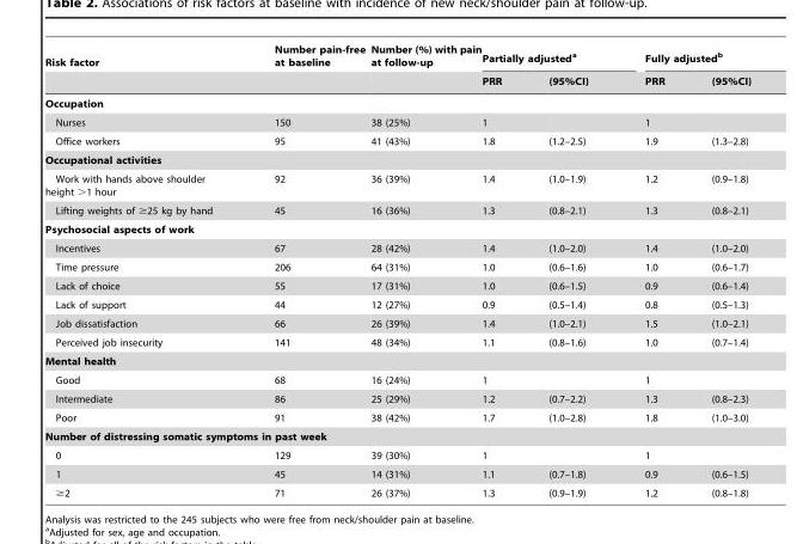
<table><thead><tr><td rowspan="2">Risk factor</td><td rowspan="2">Number pain-free at baseline</td><td rowspan="2">Number (%) with pain at follow-up</td><td colspan="2">Partially adjusted<sup>a</sup></td><td colspan="2">Fully adjusted<sup>b</sup></td></tr><tr><td>PRR</td><td>(95%CI)</td><td>PRR</td><td>(95%CI)</td></tr></thead><tbody><tr><td colspan="7">Occupation</td></tr><tr><td>Nurses</td><td>150</td><td>38 (25%)</td><td>1</td><td></td><td>1</td><td></td></tr><tr><td>Office workers</td><td>95</td><td>41 (43%)</td><td>1.8</td><td>(1.2–2.5)</td><td>1.9</td><td>(1.3–2.8)</td></tr><tr><td colspan="7">Occupational activities</td></tr><tr><td>Work with hands above shoulder height &gt;1 hour</td><td>92</td><td>36 (39%)</td><td>1.4</td><td>(1.0–1.9)</td><td>1.2</td><td>(0.9–1.8)</td></tr><tr><td>Lifting weights of ≥25 kg by hand</td><td>45</td><td>16 (36%)</td><td>1.3</td><td>(0.8–2.1)</td><td>1.3</td><td>(0.8–2.1)</td></tr><tr><td colspan="7">Psychosocial aspects of work</td></tr><tr><td>Incentives</td><td>67</td><td>28 (42%)</td><td>1.4</td><td>(1.0–2.0)</td><td>1.4</td><td>(1.0–2.0)</td></tr><tr><td>Time pressure</td><td>206</td><td>64 (31%)</td><td>1.0</td><td>(0.6–1.6)</td><td>1.0</td><td>(0.6–1.7)</td></tr><tr><td>Lack of choice</td><td>55</td><td>17 (31%)</td><td>1.0</td><td>(0.6–1.5)</td><td>0.9</td><td>(0.6–1.4)</td></tr><tr><td>Lack of support</td><td>44</td><td>12 (27%)</td><td>0.9</td><td>(0.5–1.4)</td><td>0.8</td><td>(0.5–1.3)</td></tr><tr><td>Job dissatisfaction</td><td>66</td><td>26 (39%)</td><td>1.4</td><td>(1.0–2.1)</td><td>1.5</td><td>(1.0–2.1)</td></tr><tr><td>Perceived job insecurity</td><td>141</td><td>48 (34%)</td><td>1.1</td><td>(0.8–1.6)</td><td>1.0</td><td>(0.7–1.4)</td></tr><tr><td colspan="7">Mental health</td></tr><tr><td>Good</td><td>68</td><td>16 (24%)</td><td>1</td><td></td><td>1</td><td></td></tr><tr><td>Intermediate</td><td>86</td><td>25 (29%)</td><td>1.2</td><td>(0.7–2.2)</td><td>1.3</td><td>(0.8–2.3)</td></tr><tr><td>Poor</td><td>91</td><td>38 (42%)</td><td>1.7</td><td>(1.0–2.8)</td><td>1.8</td><td>(1.0–3.0)</td></tr><tr><td colspan="7">Number of distressing somatic symptoms in past week</td></tr><tr><td>0</td><td>129</td><td>39 (30%)</td><td>1</td><td></td><td>1</td><td></td></tr><tr><td>1</td><td>45</td><td>14 (31%)</td><td>1.1</td><td>(0.7–1.8)</td><td>0.9</td><td>(0.6–1.5)</td></tr><tr><td>≥2</td><td>71</td><td>26 (37%)</td><td>1.3</td><td>(0.9–1.9)</td><td>1.2</td><td>(0.8–1.8)</td></tr></tbody></table>